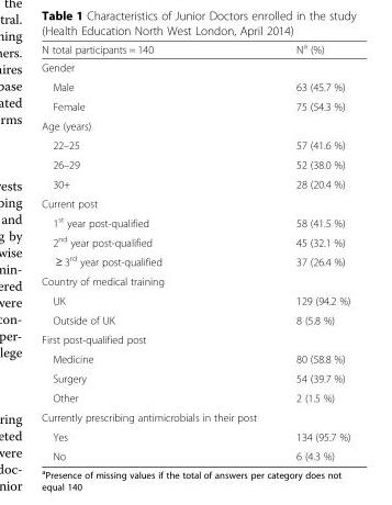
<table><thead><tr><td>N total participants = 140</td><td>N<sup>a</sup> (%)</td></tr></thead><tbody><tr><td colspan="2">Gender</td></tr><tr><td>Male</td><td>63 (45.7 %)</td></tr><tr><td>Female</td><td>75 (54.3 %)</td></tr><tr><td colspan="2">Age (years)</td></tr><tr><td>22–25</td><td>57 (41.6 %)</td></tr><tr><td>26–29</td><td>52 (38.0 %)</td></tr><tr><td>30+</td><td>28 (20.4 %)</td></tr><tr><td colspan="2">Current post</td></tr><tr><td>1<sup>st</sup> year post-qualified</td><td>58 (41.5 %)</td></tr><tr><td>2<sup>nd</sup> year post-qualified</td><td>45 (32.1 %)</td></tr><tr><td>≥ 3<sup>rd</sup> year post-qualified</td><td>37 (26.4 %)</td></tr><tr><td colspan="2">Country of medical training</td></tr><tr><td>UK</td><td>129 (94.2 %)</td></tr><tr><td>Outside of UK</td><td>8 (5.8 %)</td></tr><tr><td colspan="2">First post-qualified post</td></tr><tr><td>Medicine</td><td>80 (58.8 %)</td></tr><tr><td>Surgery</td><td>54 (39.7 %)</td></tr><tr><td>Other</td><td>2 (1.5 %)</td></tr><tr><td colspan="2">Currently prescribing antimicrobials in their post</td></tr><tr><td>Yes</td><td>134 (95.7 %)</td></tr><tr><td>No</td><td>6 (4.3 %)</td></tr></tbody></table>